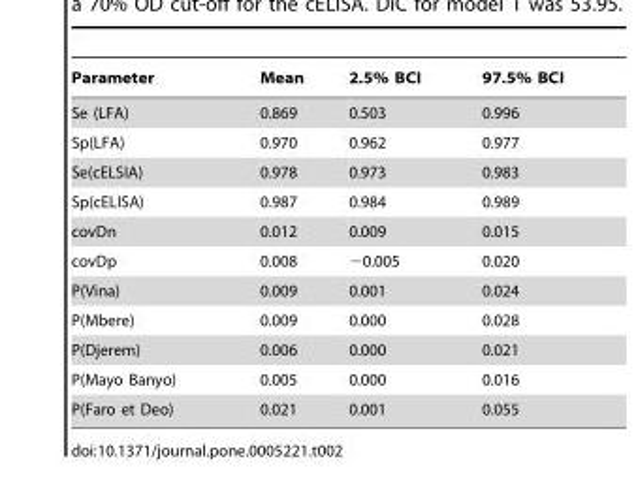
<table><thead><tr><td>Parameter</td><td>Mean</td><td>2.5% BCI</td><td>97.5% BCI</td></tr></thead><tbody><tr><td>Se (LFA)</td><td>0.869</td><td>0.503</td><td>0.996</td></tr><tr><td>Sp(LFA)</td><td>0.970</td><td>0.962</td><td>0.977</td></tr><tr><td>Se(cELSIA)</td><td>0.978</td><td>0.973</td><td>0.983</td></tr><tr><td>Sp(cELISA)</td><td>0.987</td><td>0.984</td><td>0.989</td></tr><tr><td>covDn</td><td>0.012</td><td>0.009</td><td>0.015</td></tr><tr><td>covDp</td><td>0.008</td><td>−0.005</td><td>0.020</td></tr><tr><td>P(Vina)</td><td>0.009</td><td>0.001</td><td>0.024</td></tr><tr><td>P(Mbere)</td><td>0.009</td><td>0.000</td><td>0.028</td></tr><tr><td>P(Djerem)</td><td>0.006</td><td>0.000</td><td>0.021</td></tr><tr><td>P(Mayo Banyo)</td><td>0.005</td><td>0.000</td><td>0.016</td></tr><tr><td>P(Faro et Deo)</td><td>0.021</td><td>0.001</td><td>0.055</td></tr></tbody></table>